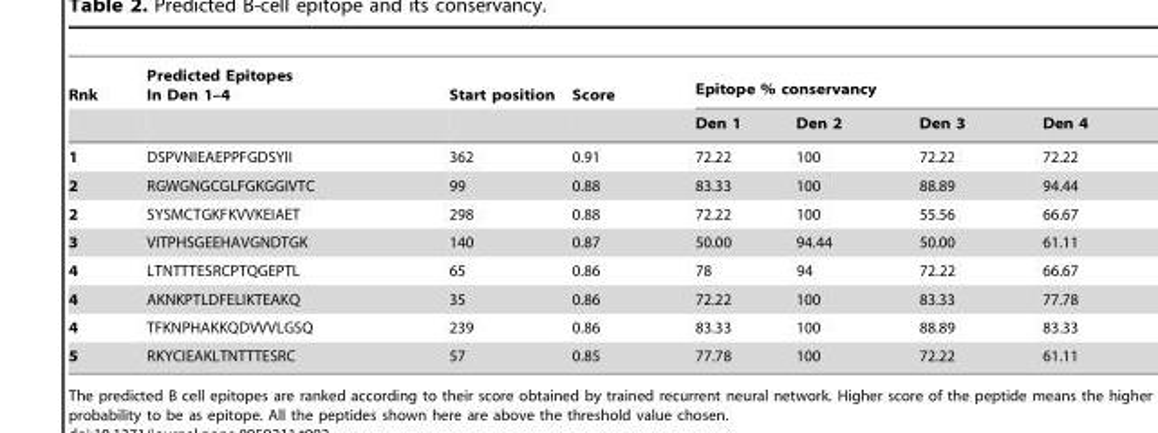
<table><thead><tr><td rowspan="2">Rnk</td><td rowspan="2">Predicted Epitopes In Den 1–4</td><td rowspan="2">Start position</td><td rowspan="2">Score</td><td colspan="4">Epitope % conservancy</td></tr><tr><td>Den 1</td><td>Den 2</td><td>Den 3</td><td>Den 4</td></tr></thead><tbody><tr><td>1</td><td>DSPVNIEAEPPFGDSYII</td><td>362</td><td>0.91</td><td>72.22</td><td>100</td><td>72.22</td><td>72.22</td></tr><tr><td>2</td><td>RGWGNGCGLFGKGGIVTC</td><td>99</td><td>0.88</td><td>83.33</td><td>100</td><td>88.89</td><td>94.44</td></tr><tr><td>2</td><td>SYSMCTGKFKVVKEIAET</td><td>298</td><td>0.88</td><td>72.22</td><td>100</td><td>55.56</td><td>66.67</td></tr><tr><td>3</td><td>VITPHSGEEHAVGNDTGK</td><td>140</td><td>0.87</td><td>50.00</td><td>94.44</td><td>50.00</td><td>61.11</td></tr><tr><td>4</td><td>LTNTTTESRCPTQGEPTL</td><td>65</td><td>0.86</td><td>78</td><td>94</td><td>72.22</td><td>66.67</td></tr><tr><td>4</td><td>AKNKPTLDFELIKTEAKQ</td><td>35</td><td>0.86</td><td>72.22</td><td>100</td><td>83.33</td><td>77.78</td></tr><tr><td>4</td><td>TFKNPHAKKQDVVVLGSQ</td><td>239</td><td>0.86</td><td>83.33</td><td>100</td><td>88.89</td><td>83.33</td></tr><tr><td>5</td><td>RKYCIEAKLTNTTTESRC</td><td>57</td><td>0.85</td><td>77.78</td><td>100</td><td>72.22</td><td>61.11</td></tr></tbody></table>